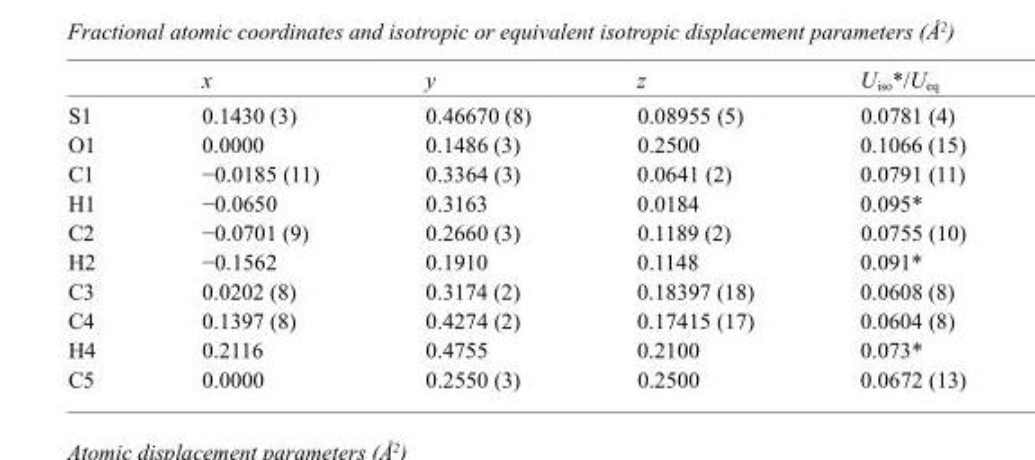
<table><thead><tr><td></td><td>x</td><td>y</td><td>z</td><td>U<sub>iso</sub>*/U<sub>eq</sub></td></tr></thead><tbody><tr><td>S1</td><td>0.1430 (3)</td><td>0.46670 (8)</td><td>0.08955 (5)</td><td>0.0781 (4)</td></tr><tr><td>O1</td><td>0.0000</td><td>0.1486 (3)</td><td>0.2500</td><td>0.1066 (15)</td></tr><tr><td>C1</td><td>−0.0185 (11)</td><td>0.3364 (3)</td><td>0.0641 (2)</td><td>0.0791 (11)</td></tr><tr><td>H1</td><td>−0.0650</td><td>0.3163</td><td>0.0184</td><td>0.095*</td></tr><tr><td>C2</td><td>−0.0701 (9)</td><td>0.2660 (3)</td><td>0.1189 (2)</td><td>0.0755 (10)</td></tr><tr><td>H2</td><td>−0.1562</td><td>0.1910</td><td>0.1148</td><td>0.091*</td></tr><tr><td>C3</td><td>0.0202 (8)</td><td>0.3174 (2)</td><td>0.18397 (18)</td><td>0.0608 (8)</td></tr><tr><td>C4</td><td>0.1397 (8)</td><td>0.4274 (2)</td><td>0.17415 (17)</td><td>0.0604 (8)</td></tr><tr><td>H4</td><td>0.2116</td><td>0.4755</td><td>0.2100</td><td>0.073*</td></tr><tr><td>C5</td><td>0.0000</td><td>0.2550 (3)</td><td>0.2500</td><td>0.0672 (13)</td></tr></tbody></table>